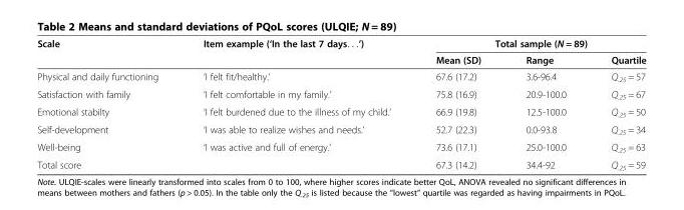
<table><thead><tr><td rowspan="2">Scale</td><td rowspan="2">Item example (‘In the last 7 days. . .’)</td><td colspan="3">Total sample (N = 89)</td></tr><tr><td>Mean (SD)</td><td>Range</td><td>Quartile</td></tr></thead><tbody><tr><td>Physical and daily functioning</td><td>‘I felt fit/healthy.’</td><td>67.6 (17.2)</td><td>3.6-96.4</td><td>Q<sub>.25</sub> = 57</td></tr><tr><td>Satisfaction with family</td><td>‘I felt comfortable in my family.’</td><td>75.8 (16.9)</td><td>20.9-100.0</td><td>Q<sub>.25</sub> = 67</td></tr><tr><td>Emotional stabilty</td><td>‘I felt burdened due to the illness of my child.’</td><td>66.9 (19.8)</td><td>12.5-100.0</td><td>Q<sub>.25</sub> = 50</td></tr><tr><td>Self-development</td><td>‘I was able to realize wishes and needs.’</td><td>52.7 (22.3)</td><td>0.0-93.8</td><td>Q<sub>.25</sub> = 34</td></tr><tr><td>Well-being</td><td>‘I was active and full of energy.’</td><td>73.6 (17.1)</td><td>25.0-100.0</td><td>Q<sub>.25</sub> = 63</td></tr><tr><td>Total score</td><td></td><td>67.3 (14.2)</td><td>34.4-92</td><td>Q<sub>.25</sub> = 59</td></tr></tbody></table>